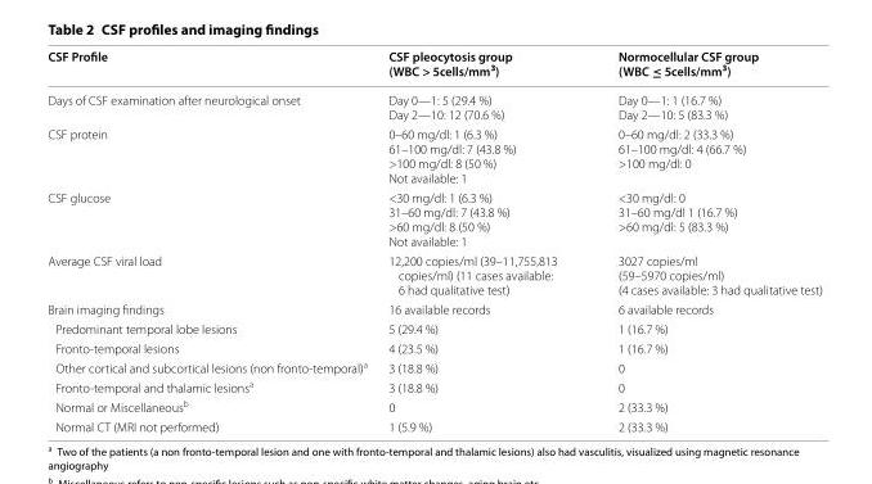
<table><thead><tr><td>CSF Profile</td><td>CSF pleocytosis group (WBC &gt; 5cells/mm<sup>3</sup>)</td><td>Normocellular CSF group (WBC ≤ 5cells/mm<sup>3</sup>)</td></tr></thead><tbody><tr><td>Days of CSF examination after neurological onset</td><td>Day 0—1: 5 (29.4 %) Day 2—10: 12 (70.6 %)</td><td>Day 0—1: 1 (16.7 %) Day 2—10: 5 (83.3 %)</td></tr><tr><td>CSF protein</td><td>0–60 mg/dl: 1 (6.3 %) 61–100 mg/dl: 7 (43.8 %) &gt;100 mg/dl: 8 (50 %) Not available: 1</td><td>0–60 mg/dl: 2 (33.3 %) 61–100 mg/dl: 4 (66.7 %) &gt;100 mg/dl: 0</td></tr><tr><td>CSF glucose</td><td>&lt;30 mg/dl: 1 (6.3 %) 31–60 mg/dl: 7 (43.8 %) &gt;60 mg/dl: 8 (50 %) Not available: 1</td><td>&lt;30 mg/dl: 0 31–60 mg/dl 1 (16.7 %) &gt;60 mg/dl: 5 (83.3 %)</td></tr><tr><td>Average CSF viral load</td><td>12,200 copies/ml (39–11,755,813 copies/ml) (11 cases available: 6 had qualitative test)</td><td>3027 copies/ml (59–5970 copies/ml) (4 cases available: 3 had qualitative test)</td></tr><tr><td>Brain imaging findings</td><td>16 available records</td><td>6 available records</td></tr><tr><td>Predominant temporal lobe lesions</td><td>5 (29.4 %)</td><td>1 (16.7 %)</td></tr><tr><td>Fronto-temporal lesions</td><td>4 (23.5 %)</td><td>1 (16.7 %)</td></tr><tr><td>Other cortical and subcortical lesions (non fronto-temporal)<sup>a</sup></td><td>3 (18.8 %)</td><td>0</td></tr><tr><td>Fronto-temporal and thalamic lesions<sup>a</sup></td><td>3 (18.8 %)</td><td>0</td></tr><tr><td>Normal or Miscellaneous<sup>b</sup></td><td>0</td><td>2 (33.3 %)</td></tr><tr><td>Normal CT (MRI not performed)</td><td>1 (5.9 %)</td><td>2 (33.3 %)</td></tr></tbody></table>